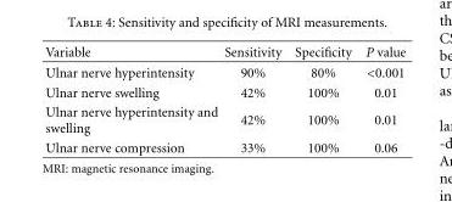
<table><thead><tr><td>Variable</td><td>Sensitivity</td><td>Specificity</td><td>P value</td></tr></thead><tbody><tr><td>Ulnar nerve hyperintensity</td><td>90%</td><td>80%</td><td>&lt;0.001</td></tr><tr><td>Ulnar nerve swelling</td><td>42%</td><td>100%</td><td>0.01</td></tr><tr><td>Ulnar nerve hyperintensity and swelling</td><td>42%</td><td>100%</td><td>0.01</td></tr><tr><td>Ulnar nerve compression</td><td>33%</td><td>100%</td><td>0.06</td></tr></tbody></table>